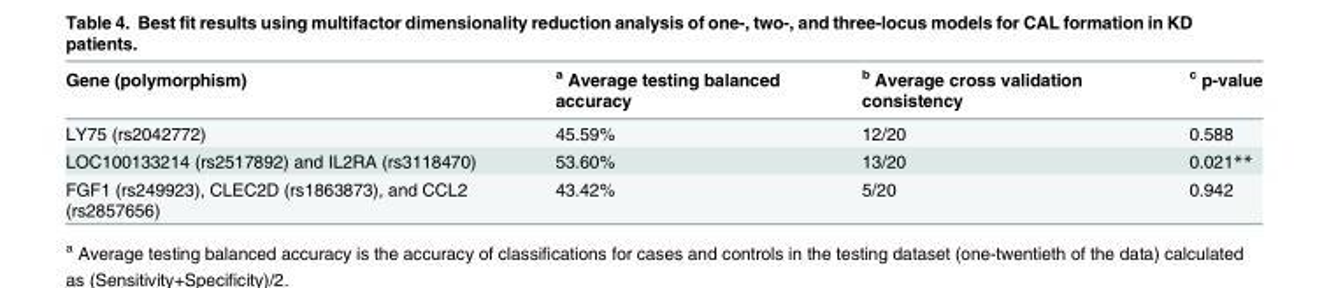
<table><thead><tr><td>Gene (polymorphism)</td><td><sup>a</sup> Average testing balanced accuracy</td><td><sup>b</sup> Average cross validation consistency</td><td><sup>c</sup> p-value</td></tr></thead><tbody><tr><td>LY75 (rs2042772)</td><td>45.59%</td><td>12/20</td><td>0.588</td></tr><tr><td>LOC100133214 (rs2517892) and IL2RA (rs3118470)</td><td>53.60%</td><td>13/20</td><td>0.021**</td></tr><tr><td>FGF1 (rs249923), CLEC2D (rs1863873), and CCL2 (rs2857656)</td><td>43.42%</td><td>5/20</td><td>0.942</td></tr></tbody></table>